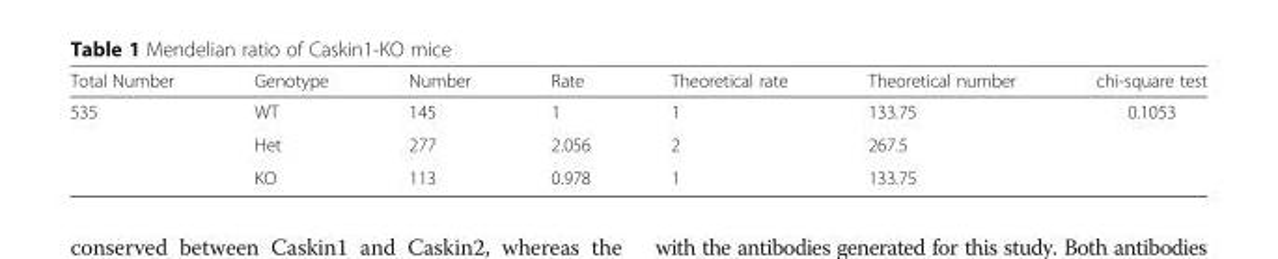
<table><thead><tr><td>Total Number</td><td>Genotype</td><td>Number</td><td>Rate</td><td>Theoretical rate</td><td>Theoretical number</td><td>chi-square test</td></tr></thead><tbody><tr><td rowspan="3">535</td><td>WT</td><td>145</td><td>1</td><td>1</td><td>133.75</td><td rowspan="3">0.1053</td></tr><tr><td>Het</td><td>277</td><td>2.056</td><td>2</td><td>267.5</td></tr><tr><td>KO</td><td>113</td><td>0.978</td><td>1</td><td>133.75</td></tr></tbody></table>